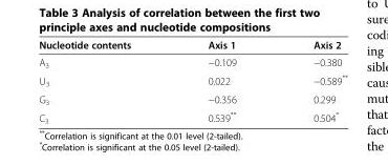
<table><thead><tr><td>Nucleotide contents</td><td>Axis 1</td><td>Axis 2</td></tr></thead><tbody><tr><td>A<sub>3</sub></td><td>−0.109</td><td>−0.380</td></tr><tr><td>U<sub>3</sub></td><td>0.022</td><td>−0.589**</td></tr><tr><td>G<sub>3</sub></td><td>−0.356</td><td>0.299</td></tr><tr><td>C<sub>3</sub></td><td>0.539**</td><td>0.504*</td></tr></tbody></table>